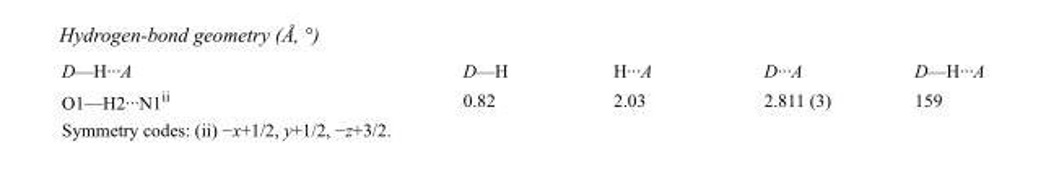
<table><tbody><tr><td>D—H···A</td><td>D—H</td><td>H···A</td><td>D···A</td><td>D—H···A</td></tr><tr><td>O1—H2···N1<sup>ii</sup></td><td>0.82</td><td>2.03</td><td>2.811 (3)</td><td>159</td></tr></tbody></table>